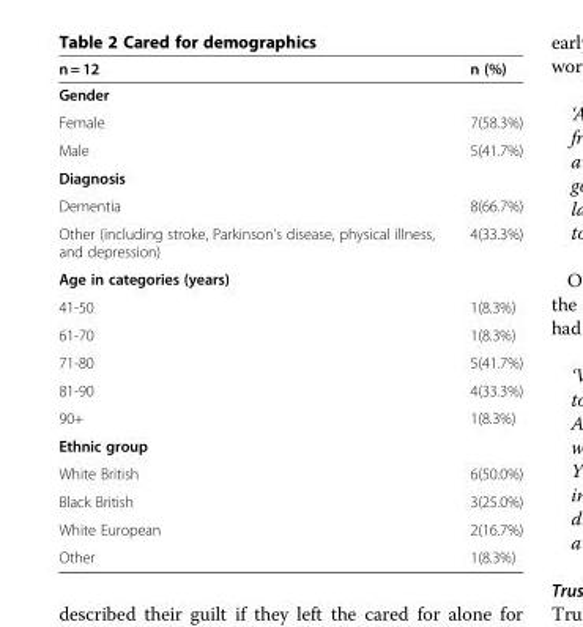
<table><thead><tr><td>n = 12</td><td>n (%)</td></tr></thead><tbody><tr><td colspan="2">Gender</td></tr><tr><td>Female</td><td>7(58.3%)</td></tr><tr><td>Male</td><td>5(41.7%)</td></tr><tr><td colspan="2">Diagnosis</td></tr><tr><td>Dementia</td><td>8(66.7%)</td></tr><tr><td>Other (including stroke, Parkinson’s disease, physical illness, and depression)</td><td>4(33.3%)</td></tr><tr><td colspan="2">Age in categories (years)</td></tr><tr><td>41-50</td><td>1(8.3%)</td></tr><tr><td>61-70</td><td>1(8.3%)</td></tr><tr><td>71-80</td><td>5(41.7%)</td></tr><tr><td>81-90</td><td>4(33.3%)</td></tr><tr><td>90+</td><td>1(8.3%)</td></tr><tr><td colspan="2">Ethnic group</td></tr><tr><td>White British</td><td>6(50.0%)</td></tr><tr><td>Black British</td><td>3(25.0%)</td></tr><tr><td>White European</td><td>2(16.7%)</td></tr><tr><td>Other</td><td>1(8.3%)</td></tr></tbody></table>